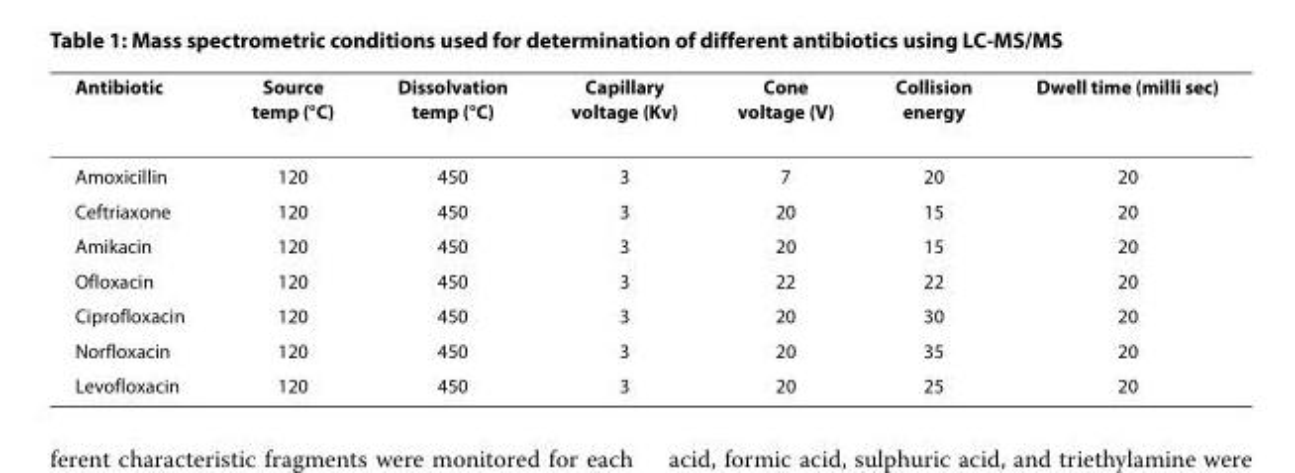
<table><thead><tr><td>Antibiotic</td><td>Source temp (°C)</td><td>Dissolvation temp (°C)</td><td>Capillary voltage (Kv)</td><td>Cone voltage (V)</td><td>Collision energy</td><td>Dwell time (milli sec)</td></tr></thead><tbody><tr><td>Amoxicillin</td><td>120</td><td>450</td><td>3</td><td>7</td><td>20</td><td>20</td></tr><tr><td>Ceftriaxone</td><td>120</td><td>450</td><td>3</td><td>20</td><td>15</td><td>20</td></tr><tr><td>Amikacin</td><td>120</td><td>450</td><td>3</td><td>20</td><td>15</td><td>20</td></tr><tr><td>Ofloxacin</td><td>120</td><td>450</td><td>3</td><td>22</td><td>22</td><td>20</td></tr><tr><td>Ciprofloxacin</td><td>120</td><td>450</td><td>3</td><td>20</td><td>30</td><td>20</td></tr><tr><td>Norfloxacin</td><td>120</td><td>450</td><td>3</td><td>20</td><td>35</td><td>20</td></tr><tr><td>Levofloxacin</td><td>120</td><td>450</td><td>3</td><td>20</td><td>25</td><td>20</td></tr></tbody></table>